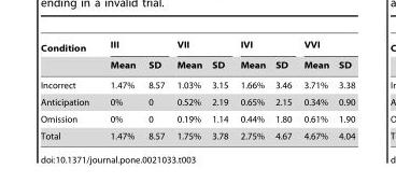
<table><thead><tr><td rowspan="2">Condition</td><td colspan="2">III</td><td colspan="2">VII</td><td colspan="2">IVI</td><td colspan="2">VVI</td></tr><tr><td>Mean</td><td>SD</td><td>Mean</td><td>SD</td><td>Mean</td><td>SD</td><td>Mean</td><td>SD</td></tr></thead><tbody><tr><td>Incorrect</td><td>1.47%</td><td>8.57</td><td>1.03%</td><td>3.15</td><td>1.66%</td><td>3.46</td><td>3.71%</td><td>3.38</td></tr><tr><td>Anticipation</td><td>0%</td><td>0</td><td>0.52%</td><td>2.19</td><td>0.65%</td><td>2.15</td><td>0.34%</td><td>0.90</td></tr><tr><td>Omission</td><td>0%</td><td>0</td><td>0.19%</td><td>1.14</td><td>0.44%</td><td>1.80</td><td>0.61%</td><td>1.90</td></tr><tr><td>Total</td><td>1.47%</td><td>8.57</td><td>1.75%</td><td>3.78</td><td>2.75%</td><td>4.67</td><td>4.67%</td><td>4.04</td></tr></tbody></table>